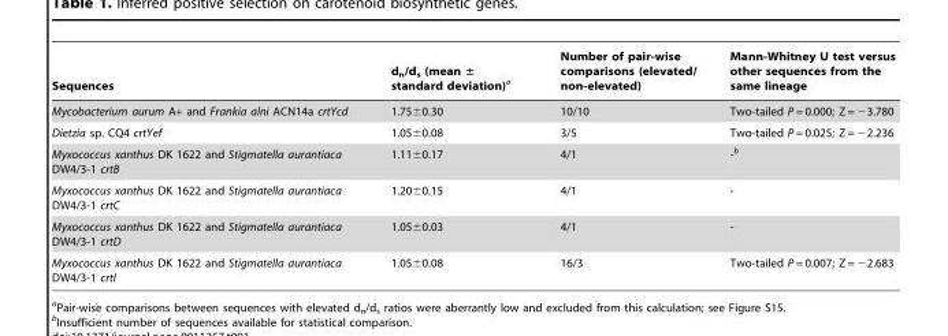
<table><thead><tr><td>Sequences</td><td>d<sub>n</sub>/d<sub>s</sub> (mean ± standard deviation)<sup>a</sup></td><td>Number of pair-wise comparisons (elevated/ non-elevated)</td><td>Mann-Whitney U test versus other sequences from the same lineage</td></tr></thead><tbody><tr><td>Mycobacterium aurum A+ and Frankia alni ACN14a crtYcd</td><td>1.75±0.30</td><td>10/10</td><td>Two-tailed P = 0.000; Z = −3.780</td></tr><tr><td>Dietzia sp. CQ4 crtYef</td><td>1.05±0.08</td><td>3/5</td><td>Two-tailed P = 0.025; Z = −2.236</td></tr><tr><td>Myxococcus xanthus DK 1622 and Stigmatella aurantiaca DW4/3-1 crtB</td><td>1.11±0.17</td><td>4/1</td><td>-b</td></tr><tr><td>Myxococcus xanthus DK 1622 and Stigmatella aurantiaca DW4/3-1 crtC</td><td>1.20±0.15</td><td>4/1</td><td>-</td></tr><tr><td>Myxococcus xanthus DK 1622 and Stigmatella aurantiaca DW4/3-1 crtD</td><td>1.05±0.03</td><td>4/1</td><td>-</td></tr><tr><td>Myxococcus xanthus DK 1622 and Stigmatella aurantiaca DW4/3-1 crtI</td><td>1.05±0.08</td><td>16/3</td><td>Two-tailed P = 0.007; Z = −2.683</td></tr></tbody></table>